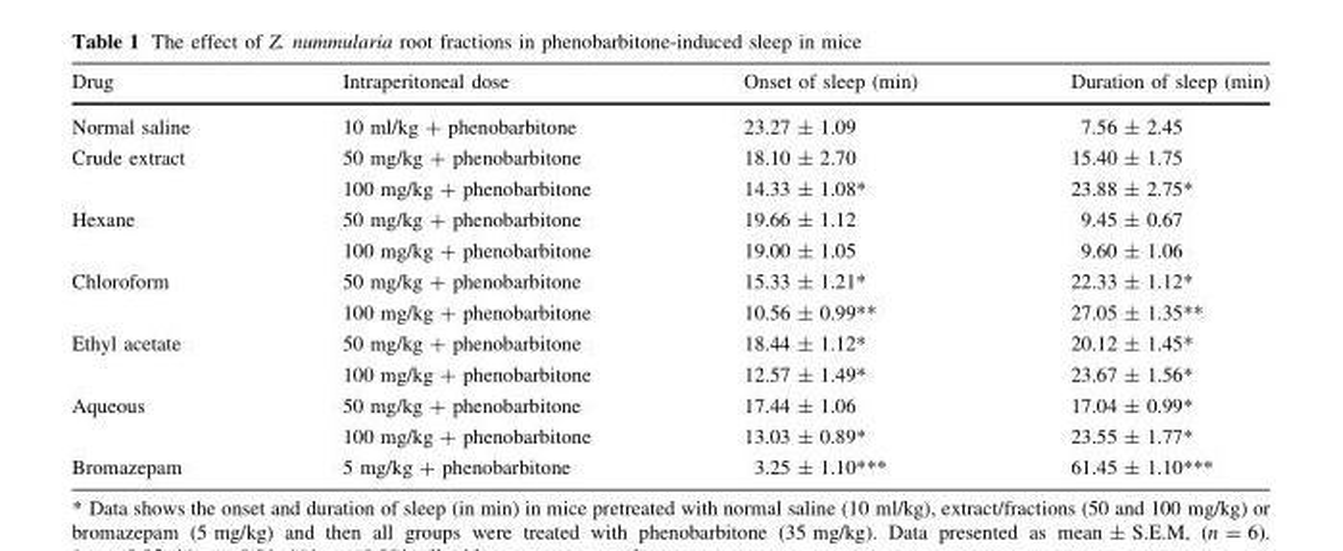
<table><thead><tr><td>Drug</td><td>Intraperitoneal dose</td><td>Onset of sleep (min)</td><td>Duration of sleep (min)</td></tr></thead><tbody><tr><td>Normal saline</td><td>10 ml/kg + phenobarbitone</td><td>23.27 ± 1.09</td><td>7.56 ± 2.45</td></tr><tr><td rowspan="2">Crude extract</td><td>50 mg/kg + phenobarbitone</td><td>18.10 ± 2.70</td><td>15.40 ± 1.75</td></tr><tr><td>100 mg/kg + phenobarbitone</td><td>14.33 ± 1.08*</td><td>23.88 ± 2.75*</td></tr><tr><td rowspan="2">Hexane</td><td>50 mg/kg + phenobarbitone</td><td>19.66 ± 1.12</td><td>9.45 ± 0.67</td></tr><tr><td>100 mg/kg + phenobarbitone</td><td>19.00 ± 1.05</td><td>9.60 ± 1.06</td></tr><tr><td rowspan="2">Chloroform</td><td>50 mg/kg + phenobarbitone</td><td>15.33 ± 1.21*</td><td>22.33 ± 1.12*</td></tr><tr><td>100 mg/kg + phenobarbitone</td><td>10.56 ± 0.99**</td><td>27.05 ± 1.35**</td></tr><tr><td rowspan="2">Ethyl acetate</td><td>50 mg/kg + phenobarbitone</td><td>18.44 ± 1.12*</td><td>20.12 ± 1.45*</td></tr><tr><td>100 mg/kg + phenobarbitone</td><td>12.57 ± 1.49*</td><td>23.67 ± 1.56*</td></tr><tr><td rowspan="2">Aqueous</td><td>50 mg/kg + phenobarbitone</td><td>17.44 ± 1.06</td><td>17.04 ± 0.99*</td></tr><tr><td>100 mg/kg + phenobarbitone</td><td>13.03 ± 0.89*</td><td>23.55 ± 1.77*</td></tr><tr><td>Bromazepam</td><td>5 mg/kg + phenobarbitone</td><td>3.25 ± 1.10***</td><td>61.45 ± 1.10***</td></tr></tbody></table>